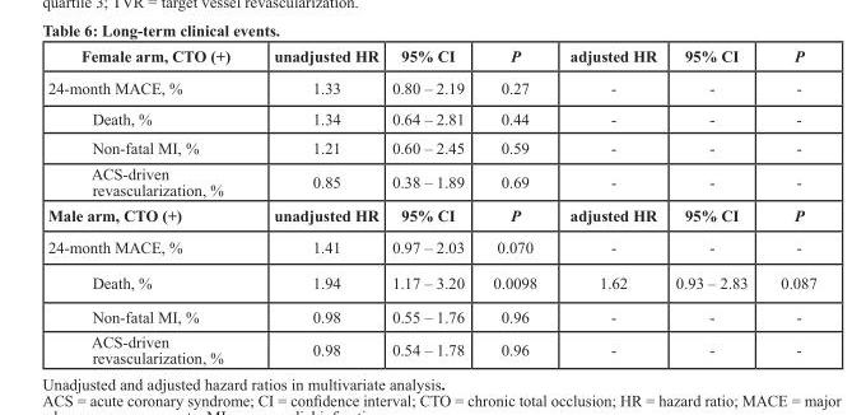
<table><thead><tr><td>Female arm, CTO (+)</td><td>unadjusted HR</td><td>95% CI</td><td>P</td><td>adjusted HR</td><td>95% CI</td><td>P</td></tr></thead><tbody><tr><td>24-month MACE, %</td><td>1.33</td><td>0.80 – 2.19</td><td>0.27</td><td>-</td><td>-</td><td>-</td></tr><tr><td>Death, %</td><td>1.34</td><td>0.64 – 2.81</td><td>0.44</td><td>-</td><td>-</td><td>-</td></tr><tr><td>Non-fatal MI, %</td><td>1.21</td><td>0.60 – 2.45</td><td>0.59</td><td>-</td><td>-</td><td>-</td></tr><tr><td>ACS-driven revascularization, %</td><td>0.85</td><td>0.38 – 1.89</td><td>0.69</td><td>-</td><td>-</td><td>-</td></tr><tr><td>Male arm, CTO (+)</td><td>unadjusted HR</td><td>95% CI</td><td>P</td><td>adjusted HR</td><td>95% CI</td><td>P</td></tr><tr><td>24-month MACE, %</td><td>1.41</td><td>0.97 – 2.03</td><td>0.070</td><td>-</td><td>-</td><td>-</td></tr><tr><td>Death, %</td><td>1.94</td><td>1.17 – 3.20</td><td>0.0098</td><td>1.62</td><td>0.93 – 2.83</td><td>0.087</td></tr><tr><td>Non-fatal MI, %</td><td>0.98</td><td>0.55 – 1.76</td><td>0.96</td><td>-</td><td>-</td><td>-</td></tr><tr><td>ACS-driven revascularization, %</td><td>0.98</td><td>0.54 – 1.78</td><td>0.96</td><td>-</td><td>-</td><td>-</td></tr></tbody></table>